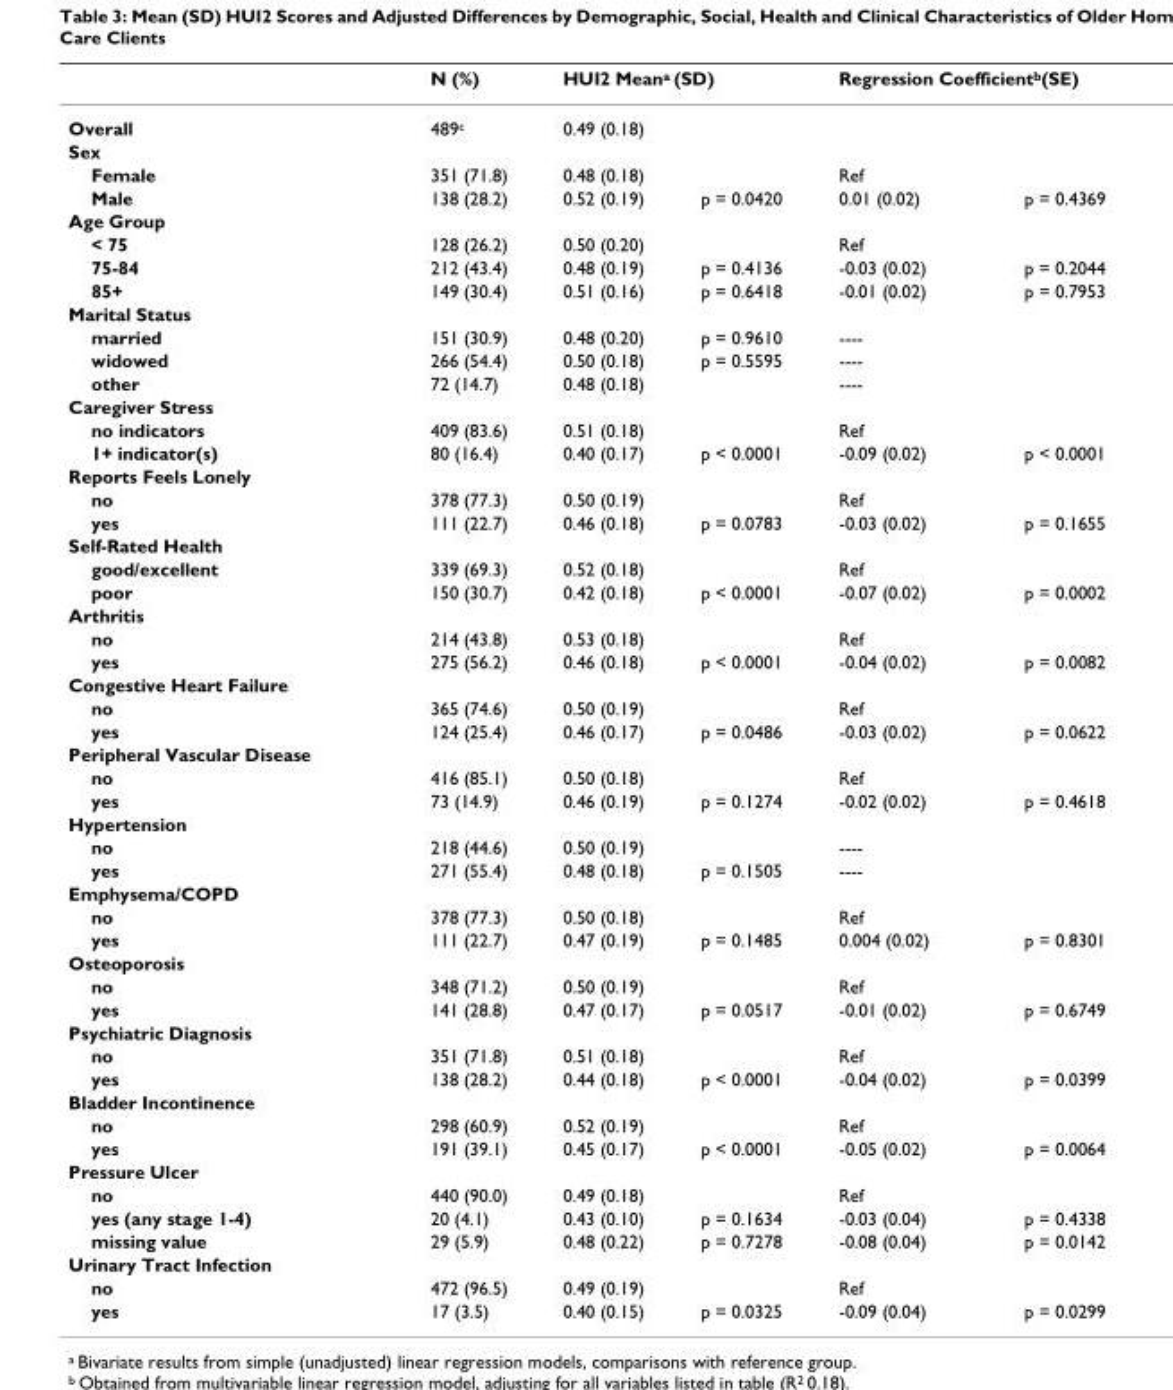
<table><thead><tr><td rowspan="2">Overall</td><td rowspan="2">N (%) 489<sup>c</sup></td><td colspan="2">HUI2 Mean<sup>a</sup> (SD)</td><td colspan="2">Regression Coefficient<sup>b</sup>(SE)</td></tr><tr><td>0.49 (0.18)</td><td></td><td></td><td></td></tr></thead><tbody><tr><td colspan="6">Sex</td></tr><tr><td>Female</td><td>351 (71.8)</td><td>0.48 (0.18)</td><td></td><td>Ref</td><td></td></tr><tr><td>Male</td><td>138 (28.2)</td><td>0.52 (0.19)</td><td>p = 0.0420</td><td>0.01 (0.02)</td><td>p = 0.4369</td></tr><tr><td colspan="6">Age Group</td></tr><tr><td>&lt; 75</td><td>128 (26.2)</td><td>0.50 (0.20)</td><td></td><td>Ref</td><td></td></tr><tr><td>75-84</td><td>212 (43.4)</td><td>0.48 (0.19)</td><td>p = 0.4136</td><td>-0.03 (0.02)</td><td>p = 0.2044</td></tr><tr><td>85+</td><td>149 (30.4)</td><td>0.51 (0.16)</td><td>p = 0.6418</td><td>-0.01 (0.02)</td><td>p = 0.7953</td></tr><tr><td colspan="6">Marital Status</td></tr><tr><td>married</td><td>151 (30.9)</td><td>0.48 (0.20)</td><td>p = 0.9610</td><td>----</td><td></td></tr><tr><td>widowed</td><td>266 (54.4)</td><td>0.50 (0.18)</td><td>p = 0.5595</td><td>----</td><td></td></tr><tr><td>other</td><td>72 (14.7)</td><td>0.48 (0.18)</td><td></td><td>----</td><td></td></tr><tr><td colspan="6">Caregiver Stress</td></tr><tr><td>no indicators</td><td>409 (83.6)</td><td>0.51 (0.18)</td><td></td><td>Ref</td><td></td></tr><tr><td>1+ indicator(s)</td><td>80 (16.4)</td><td>0.40 (0.17)</td><td>p &lt; 0.0001</td><td>-0.09 (0.02)</td><td>p &lt; 0.0001</td></tr><tr><td colspan="6">Reports Feels Lonely</td></tr><tr><td>no</td><td>378 (77.3)</td><td>0.50 (0.19)</td><td></td><td>Ref</td><td></td></tr><tr><td>yes</td><td>111 (22.7)</td><td>0.46 (0.18)</td><td>p = 0.0783</td><td>-0.03 (0.02)</td><td>p = 0.1655</td></tr><tr><td colspan="6">Self-Rated Health</td></tr><tr><td>good/excellent</td><td>339 (69.3)</td><td>0.52 (0.18)</td><td></td><td>Ref</td><td></td></tr><tr><td>poor</td><td>150 (30.7)</td><td>0.42 (0.18)</td><td>p &lt; 0.0001</td><td>-0.07 (0.02)</td><td>p = 0.0002</td></tr><tr><td colspan="6">Arthritis</td></tr><tr><td>no</td><td>214 (43.8)</td><td>0.53 (0.18)</td><td></td><td>Ref</td><td></td></tr><tr><td>yes</td><td>275 (56.2)</td><td>0.46 (0.18)</td><td>p &lt; 0.0001</td><td>-0.04 (0.02)</td><td>p = 0.0082</td></tr><tr><td colspan="6">Congestive Heart Failure</td></tr><tr><td>no</td><td>365 (74.6)</td><td>0.50 (0.19)</td><td></td><td>Ref</td><td></td></tr><tr><td>yes</td><td>124 (25.4)</td><td>0.46 (0.17)</td><td>p = 0.0486</td><td>-0.03 (0.02)</td><td>p = 0.0622</td></tr><tr><td colspan="6">Peripheral Vascular Disease</td></tr><tr><td>no</td><td>416 (85.1)</td><td>0.50 (0.18)</td><td></td><td>Ref</td><td></td></tr><tr><td>yes</td><td>73 (14.9)</td><td>0.46 (0.19)</td><td>p = 0.1274</td><td>-0.02 (0.02)</td><td>p = 0.4618</td></tr><tr><td colspan="6">Hypertension</td></tr><tr><td>no</td><td>218 (44.6)</td><td>0.50 (0.19)</td><td></td><td>----</td><td></td></tr><tr><td>yes</td><td>271 (55.4)</td><td>0.48 (0.18)</td><td>p = 0.1505</td><td>----</td><td></td></tr><tr><td colspan="6">Emphysema/COPD</td></tr><tr><td>no</td><td>378 (77.3)</td><td>0.50 (0.18)</td><td></td><td>Ref</td><td></td></tr><tr><td>yes</td><td>111 (22.7)</td><td>0.47 (0.19)</td><td>p = 0.1485</td><td>0.004 (0.02)</td><td>p = 0.8301</td></tr><tr><td colspan="6">Osteoporosis</td></tr><tr><td>no</td><td>348 (71.2)</td><td>0.50 (0.19)</td><td></td><td>Ref</td><td></td></tr><tr><td>yes</td><td>141 (28.8)</td><td>0.47 (0.17)</td><td>p = 0.0517</td><td>-0.01 (0.02)</td><td>p = 0.6749</td></tr><tr><td colspan="6">Psychiatric Diagnosis</td></tr><tr><td>no</td><td>351 (71.8)</td><td>0.51 (0.18)</td><td></td><td>Ref</td><td></td></tr><tr><td>yes</td><td>138 (28.2)</td><td>0.44 (0.18)</td><td>p &lt; 0.0001</td><td>-0.04 (0.02)</td><td>p = 0.0399</td></tr><tr><td colspan="6">Bladder Incontinence</td></tr><tr><td>no</td><td>298 (60.9)</td><td>0.52 (0.19)</td><td></td><td>Ref</td><td></td></tr><tr><td>yes</td><td>191 (39.1)</td><td>0.45 (0.17)</td><td>p &lt; 0.0001</td><td>-0.05 (0.02)</td><td>p = 0.0064</td></tr><tr><td colspan="6">Pressure Ulcer</td></tr><tr><td>no</td><td>440 (90.0)</td><td>0.49 (0.18)</td><td></td><td>Ref</td><td></td></tr><tr><td>yes (any stage 1-4)</td><td>20 (4.1)</td><td>0.43 (0.10)</td><td>p = 0.1634</td><td>-0.03 (0.04)</td><td>p = 0.4338</td></tr><tr><td>missing value</td><td>29 (5.9)</td><td>0.48 (0.22)</td><td>p = 0.7278</td><td>-0.08 (0.04)</td><td>p = 0.0142</td></tr><tr><td colspan="6">Urinary Tract Infection</td></tr><tr><td>no</td><td>472 (96.5)</td><td>0.49 (0.19)</td><td></td><td>Ref</td><td></td></tr><tr><td>yes</td><td>17 (3.5)</td><td>0.40 (0.15)</td><td>p = 0.0325</td><td>-0.09 (0.04)</td><td>p = 0.0299</td></tr></tbody></table>